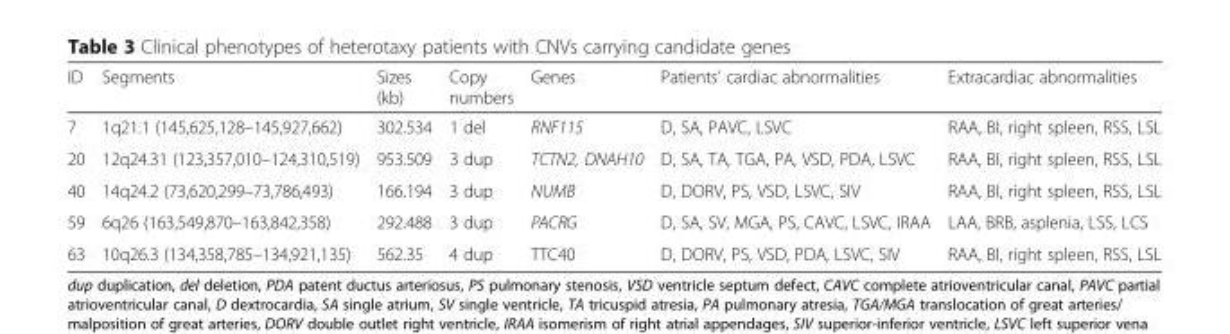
<table><thead><tr><td>ID</td><td>Segments</td><td>Sizes (kb)</td><td>Copy numbers</td><td>Genes</td><td>Patients’ cardiac abnormalities</td><td>Extracardiac abnormalities</td></tr></thead><tbody><tr><td>7</td><td>1q21.1 (145,625,128–145,927,662)</td><td>302.534</td><td>1 del</td><td>RNF115</td><td>D, SA, PAVC, LSVC</td><td>RAA, BI, right spleen, RSS, LSL</td></tr><tr><td>20</td><td>12q24.31 (123,357,010–124,310,519)</td><td>953.509</td><td>3 dup</td><td>TCTN2, DNAH10</td><td>D, SA, TA, TGA, PA, VSD, PDA, LSVC</td><td>RAA, BI, right spleen, RSS, LSL</td></tr><tr><td>40</td><td>14q24.2 (73,620,299–73,786,493)</td><td>166.194</td><td>3 dup</td><td>NUMB</td><td>D, DORV, PS, VSD, LSVC, SIV</td><td>RAA, BI, right spleen, RSS, LSL</td></tr><tr><td>59</td><td>6q26 (163,549,870–163,842,358)</td><td>292.488</td><td>3 dup</td><td>PACRG</td><td>D, SA, SV, MGA, PS, CAVC, LSVC, IRAA</td><td>LAA, BRB, asplenia, LSS, LCS</td></tr><tr><td>63</td><td>10q26.3 (134,358,785–134,921,135)</td><td>562.35</td><td>4 dup</td><td>TTC40</td><td>D, DORV, PS, VSD, PDA, LSVC, SIV</td><td>RAA, BI, right spleen, RSS, LSL</td></tr></tbody></table>